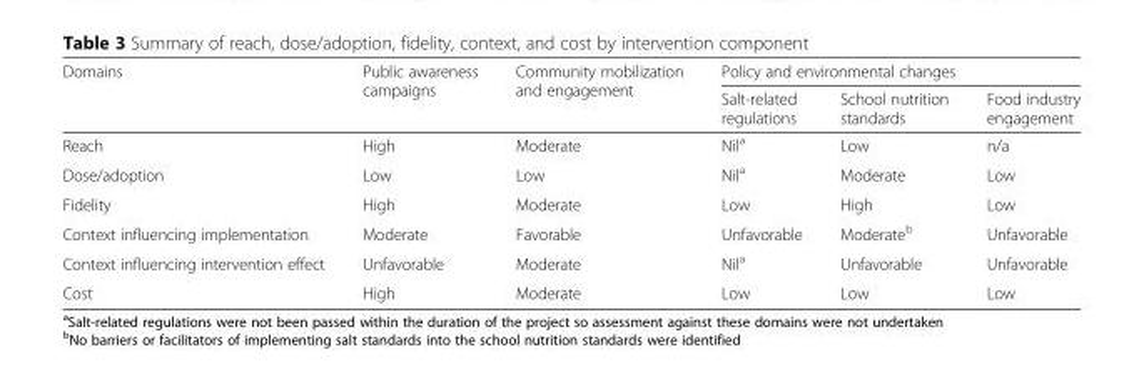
<table><thead><tr><td rowspan="2">Domains</td><td rowspan="2">Public awareness campaigns</td><td rowspan="2">Community mobilization and engagement</td><td colspan="3">Policy and environmental changes</td></tr><tr><td>Salt-related regulations</td><td>School nutrition standards</td><td>Food industry engagement</td></tr></thead><tbody><tr><td>Reach</td><td>High</td><td>Moderate</td><td>Nil<sup>a</sup></td><td>Low</td><td>n/a</td></tr><tr><td>Dose/adoption</td><td>Low</td><td>Low</td><td>Nil<sup>a</sup></td><td>Moderate</td><td>Low</td></tr><tr><td>Fidelity</td><td>High</td><td>Moderate</td><td>Low</td><td>High</td><td>Low</td></tr><tr><td>Context influencing implementation</td><td>Moderate</td><td>Favorable</td><td>Unfavorable</td><td>Moderate<sup>b</sup></td><td>Unfavorable</td></tr><tr><td>Context influencing intervention effect</td><td>Unfavorable</td><td>Moderate</td><td>Nil<sup>a</sup></td><td>Unfavorable</td><td>Unfavorable</td></tr><tr><td>Cost</td><td>High</td><td>Moderate</td><td>Low</td><td>Low</td><td>Low</td></tr></tbody></table>